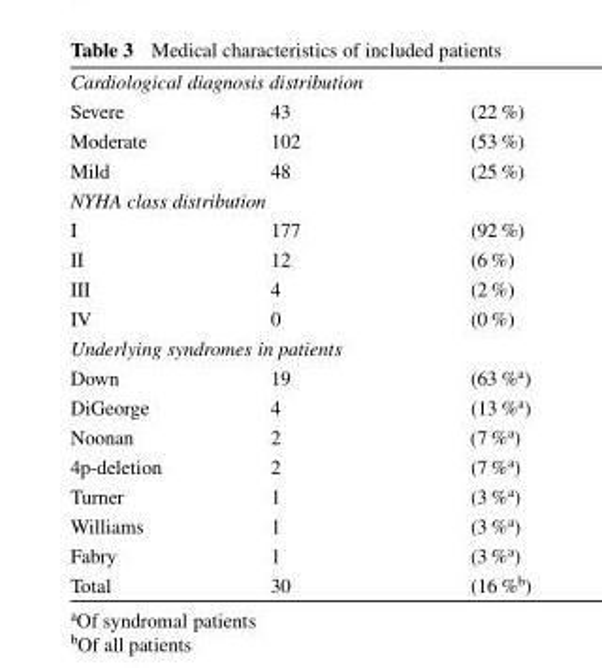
<table><tbody><tr><td colspan="3">Cardiological diagnosis distribution</td></tr><tr><td>Severe</td><td>43</td><td>(22 %)</td></tr><tr><td>Moderate</td><td>102</td><td>(53 %)</td></tr><tr><td>Mild</td><td>48</td><td>(25 %)</td></tr><tr><td colspan="3">NYHA class distribution</td></tr><tr><td>I</td><td>177</td><td>(92 %)</td></tr><tr><td>II</td><td>12</td><td>(6 %)</td></tr><tr><td>III</td><td>4</td><td>(2 %)</td></tr><tr><td>IV</td><td>0</td><td>(0 %)</td></tr><tr><td colspan="3">Underlying syndromes in patients</td></tr><tr><td>Down</td><td>19</td><td>(63 %<sup>a</sup>)</td></tr><tr><td>DiGeorge</td><td>4</td><td>(13 %<sup>a</sup>)</td></tr><tr><td>Noonan</td><td>2</td><td>(7 %<sup>a</sup>)</td></tr><tr><td>4p-deletion</td><td>2</td><td>(7 %<sup>a</sup>)</td></tr><tr><td>Turner</td><td>1</td><td>(3 %<sup>a</sup>)</td></tr><tr><td>Williams</td><td>1</td><td>(3 %<sup>a</sup>)</td></tr><tr><td>Fabry</td><td>1</td><td>(3 %<sup>a</sup>)</td></tr><tr><td>Total</td><td>30</td><td>(16 %<sup>b</sup>)</td></tr></tbody></table>